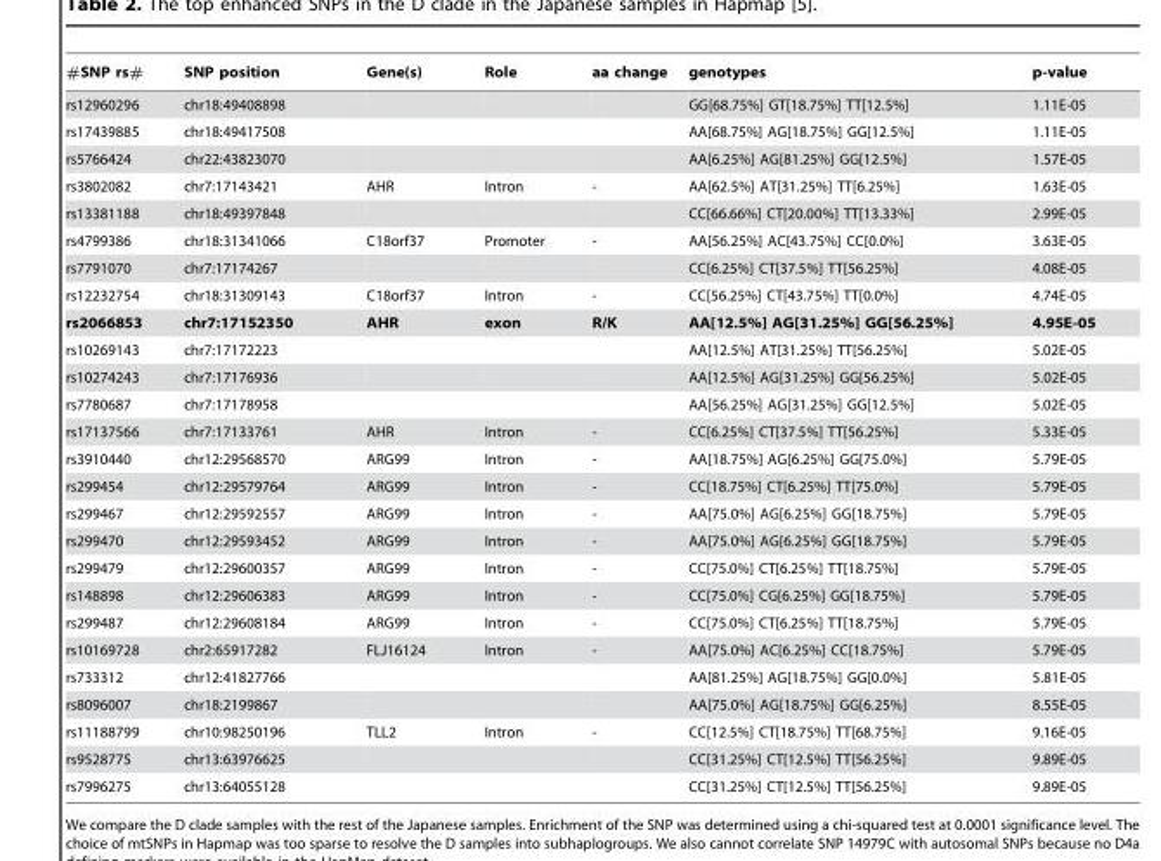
<table><thead><tr><td>#SNP rs#</td><td>SNP position</td><td>Gene(s)</td><td>Role</td><td>aa change</td><td>genotypes</td><td>p-value</td></tr></thead><tbody><tr><td>rs12960296</td><td>chr18:49408898</td><td></td><td></td><td></td><td>GG[68.75%] GT[18.75%] TT[12.5%]</td><td>1.11E-05</td></tr><tr><td>rs17439885</td><td>chr18:49417508</td><td></td><td></td><td></td><td>AA[68.75%] AG[18.75%] GG[12.5%]</td><td>1.11E-05</td></tr><tr><td>rs5766424</td><td>chr22:43823070</td><td></td><td></td><td></td><td>AA[6.25%] AG[81.25%] GG[12.5%]</td><td>1.57E-05</td></tr><tr><td>rs3802082</td><td>chr7:17143421</td><td>AHR</td><td>Intron</td><td>-</td><td>AA[62.5%] AT[31.25%] TT[6.25%]</td><td>1.63E-05</td></tr><tr><td>rs13381188</td><td>chr18:49397848</td><td></td><td></td><td></td><td>CC[66.66%] CT[20.00%] TT[13.33%]</td><td>2.99E-05</td></tr><tr><td>rs4799386</td><td>chr18:31341066</td><td>C18orf37</td><td>Promoter</td><td>-</td><td>AA[56.25%] AC[43.75%] CC[0.0%]</td><td>3.63E-05</td></tr><tr><td>rs7791070</td><td>chr7:17174267</td><td></td><td></td><td></td><td>CC[6.25%] CT[37.5%] TT[56.25%]</td><td>4.08E-05</td></tr><tr><td>rs12232754</td><td>chr18:31309143</td><td>C18orf37</td><td>Intron</td><td>-</td><td>CC[56.25%] CT[43.75%] TT[0.0%]</td><td>4.74E-05</td></tr><tr><td>rs2066853</td><td>chr7:17152350</td><td>AHR</td><td>exon</td><td>R/K</td><td>AA[12.5%] AG[31.25%] GG[56.25%]</td><td>4.95E-05</td></tr><tr><td>rs10269143</td><td>chr7:17172223</td><td></td><td></td><td></td><td>AA[12.5%] AT[31.25%] TT[56.25%]</td><td>5.02E-05</td></tr><tr><td>rs10274243</td><td>chr7:17176936</td><td></td><td></td><td></td><td>AA[12.5%] AG[31.25%] GG[56.25%]</td><td>5.02E-05</td></tr><tr><td>rs7780687</td><td>chr7:17178958</td><td></td><td></td><td></td><td>AA[56.25%] AG[31.25%] GG[12.5%]</td><td>5.02E-05</td></tr><tr><td>rs17137566</td><td>chr7:17133761</td><td>AHR</td><td>Intron</td><td>-</td><td>CC[6.25%] CT[37.5%] TT[56.25%]</td><td>5.33E-05</td></tr><tr><td>rs3910440</td><td>chr12:29568570</td><td>ARG99</td><td>Intron</td><td>-</td><td>AA[18.75%] AG[6.25%] GG[75.0%]</td><td>5.79E-05</td></tr><tr><td>rs299454</td><td>chr12:29579764</td><td>ARG99</td><td>Intron</td><td>-</td><td>CC[18.75%] CT[6.25%] TT[75.0%]</td><td>5.79E-05</td></tr><tr><td>rs299467</td><td>chr12:29592557</td><td>ARG99</td><td>Intron</td><td>-</td><td>AA[75.0%] AG[6.25%] GG[18.75%]</td><td>5.79E-05</td></tr><tr><td>rs299470</td><td>chr12:29593452</td><td>ARG99</td><td>Intron</td><td>-</td><td>AA[75.0%] AG[6.25%] GG[18.75%]</td><td>5.79E-05</td></tr><tr><td>rs299479</td><td>chr12:29600357</td><td>ARG99</td><td>Intron</td><td>-</td><td>CC[75.0%] CT[6.25%] TT[18.75%]</td><td>5.79E-05</td></tr><tr><td>rs148898</td><td>chr12:29606383</td><td>ARG99</td><td>Intron</td><td>-</td><td>CC[75.0%] CG[6.25%] GG[18.75%]</td><td>5.79E-05</td></tr><tr><td>rs299487</td><td>chr12:29608184</td><td>ARG99</td><td>Intron</td><td>-</td><td>CC[75.0%] CT[6.25%] TT[18.75%]</td><td>5.79E-05</td></tr><tr><td>rs10169728</td><td>chr2:65917282</td><td>FLJ16124</td><td>Intron</td><td>-</td><td>AA[75.0%] AC[6.25%] CC[18.75%]</td><td>5.79E-05</td></tr><tr><td>rs733312</td><td>chr12:41827766</td><td></td><td></td><td></td><td>AA[81.25%] AG[18.75%] GG[0.0%]</td><td>5.81E-05</td></tr><tr><td>rs8096007</td><td>chr18:2199867</td><td></td><td></td><td></td><td>AA[75.0%] AG[18.75%] GG[6.25%]</td><td>8.55E-05</td></tr><tr><td>rs11188799</td><td>chr10:98250196</td><td>TLL2</td><td>Intron</td><td>-</td><td>CC[12.5%] CT[18.75%] TT[68.75%]</td><td>9.16E-05</td></tr><tr><td>rs9528775</td><td>chr13:63976625</td><td></td><td></td><td></td><td>CC[31.25%] CT[12.5%] TT[56.25%]</td><td>9.89E-05</td></tr><tr><td>rs7996275</td><td>chr13:64055128</td><td></td><td></td><td></td><td>CC[31.25%] CT[12.5%] TT[56.25%]</td><td>9.89E-05</td></tr></tbody></table>